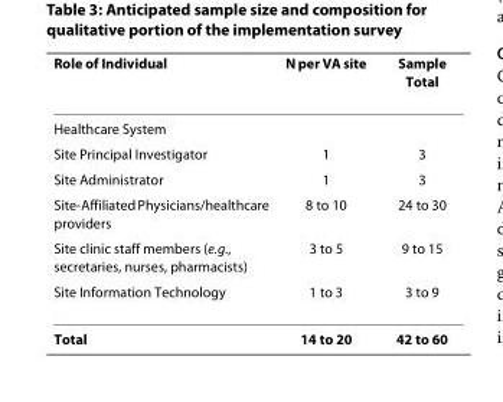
<table><thead><tr><td>Role of Individual</td><td>N per VA site</td><td>Sample Total</td></tr></thead><tbody><tr><td colspan="3">Healthcare System</td></tr><tr><td>Site Principal Investigator</td><td>1</td><td>3</td></tr><tr><td>Site Administrator</td><td>1</td><td>3</td></tr><tr><td>Site-Affiliated Physicians/healthcare providers</td><td>8 to 10</td><td>24 to 30</td></tr><tr><td>Site clinic staff members (e.g., secretaries, nurses, pharmacists)</td><td>3 to 5</td><td>9 to 15</td></tr><tr><td>Site Information Technology</td><td>1 to 3</td><td>3 to 9</td></tr><tr><td>Total</td><td>14 to 20</td><td>42 to 60</td></tr></tbody></table>